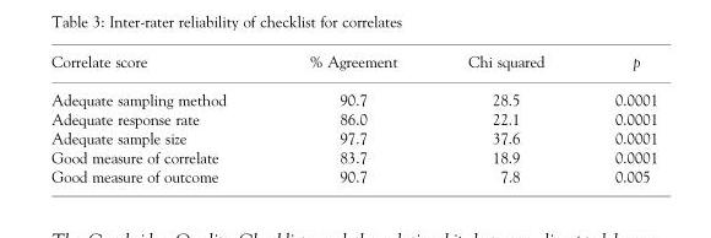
<table><thead><tr><td>Correlate score</td><td>% Agreement</td><td>Chi squared</td><td>p</td></tr></thead><tbody><tr><td>Adequate sampling method</td><td>90.7</td><td>28.5</td><td>0.0001</td></tr><tr><td>Adequate response rate</td><td>86.0</td><td>22.1</td><td>0.0001</td></tr><tr><td>Adequate sample size</td><td>97.7</td><td>37.6</td><td>0.0001</td></tr><tr><td>Good measure of correlate</td><td>83.7</td><td>18.9</td><td>0.0001</td></tr><tr><td>Good measure of outcome</td><td>90.7</td><td>7.8</td><td>0.005</td></tr></tbody></table>